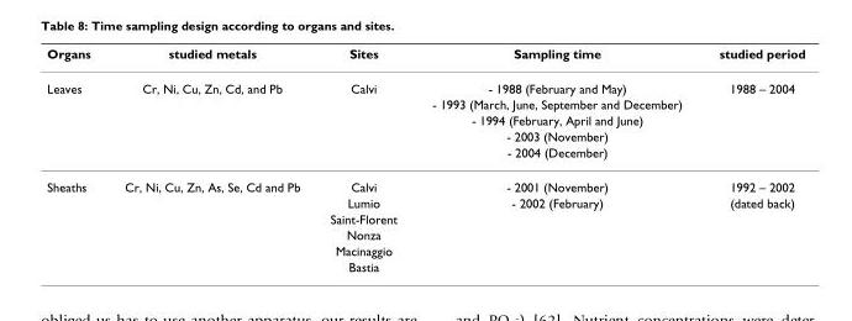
<table><thead><tr><td>Organs</td><td>studied metals</td><td>Sites</td><td>Sampling time</td><td>studied period</td></tr></thead><tbody><tr><td rowspan="5">Leaves</td><td>Cr, Ni, Cu, Zn, Cd, and Pb</td><td>Calvi</td><td>- 1988 (February and May)</td><td>1988 – 2004</td></tr><tr><td></td><td></td><td>- 1993 (March, June, September and December)</td><td></td></tr><tr><td></td><td></td><td>- 1994 (February, April and June)</td><td></td></tr><tr><td></td><td></td><td>- 2003 (November)</td><td></td></tr><tr><td></td><td></td><td>- 2004 (December)</td><td></td></tr><tr><td rowspan="6">Sheaths</td><td>Cr, Ni, Cu, Zn, As, Se, Cd and Pb</td><td>Calvi</td><td>- 2001 (November)</td><td>1992 – 2002</td></tr><tr><td></td><td>Lumio</td><td>- 2002 (February)</td><td>(dated back)</td></tr><tr><td></td><td>Saint-Florent</td><td></td><td></td></tr><tr><td></td><td>Nonza</td><td></td><td></td></tr><tr><td></td><td>Macinaggio</td><td></td><td></td></tr><tr><td></td><td>Bastia</td><td></td><td></td></tr></tbody></table>